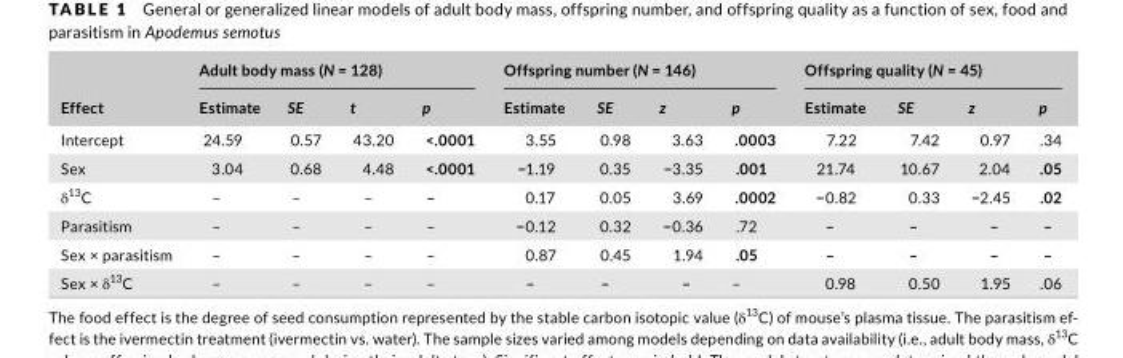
<table><thead><tr><td rowspan="2">Effect</td><td colspan="4">Adult body mass (N = 128)</td><td colspan="4">Offspring number (N = 146)</td><td colspan="4">Offspring quality (N = 45)</td></tr><tr><td>Estimate</td><td>SE</td><td>t</td><td>p</td><td>Estimate</td><td>SE</td><td>z</td><td>p</td><td>Estimate</td><td>SE</td><td>z</td><td>p</td></tr></thead><tbody><tr><td>Intercept</td><td>24.59</td><td>0.57</td><td>43.20</td><td>&lt;.0001</td><td>3.55</td><td>0.98</td><td>3.63</td><td>.0003</td><td>7.22</td><td>7.42</td><td>0.97</td><td>.34</td></tr><tr><td>Sex</td><td>3.04</td><td>0.68</td><td>4.48</td><td>&lt;.0001</td><td>−1.19</td><td>0.35</td><td>−3.35</td><td>.001</td><td>21.74</td><td>10.67</td><td>2.04</td><td>.05</td></tr><tr><td>δ<sup>13</sup>C</td><td>–</td><td>–</td><td>–</td><td>–</td><td>0.17</td><td>0.05</td><td>3.69</td><td>.0002</td><td>−0.82</td><td>0.33</td><td>−2.45</td><td>.02</td></tr><tr><td>Parasitism</td><td>–</td><td>–</td><td>–</td><td>–</td><td>−0.12</td><td>0.32</td><td>−0.36</td><td>.72</td><td>–</td><td>–</td><td>–</td><td>–</td></tr><tr><td>Sex × parasitism</td><td>–</td><td>–</td><td>–</td><td>–</td><td>0.87</td><td>0.45</td><td>1.94</td><td>.05</td><td>–</td><td>–</td><td>–</td><td>–</td></tr><tr><td>Sex × δ<sup>13</sup>C</td><td>–</td><td>–</td><td>–</td><td>–</td><td>–</td><td>–</td><td>–</td><td>–</td><td>0.98</td><td>0.50</td><td>1.95</td><td>.06</td></tr></tbody></table>